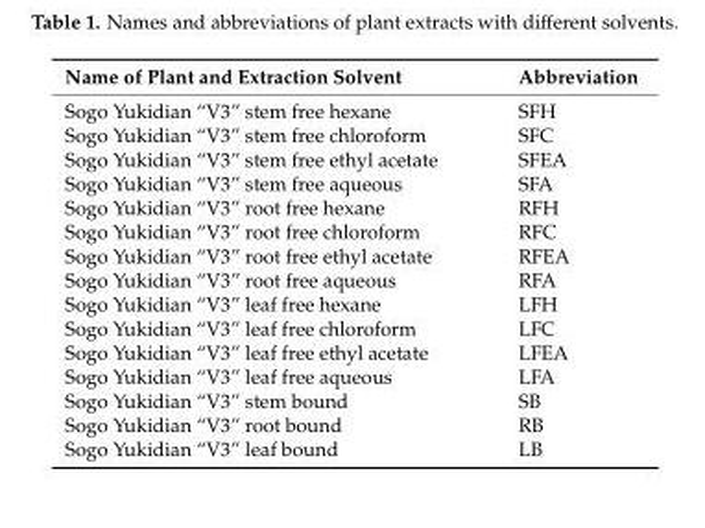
<table><thead><tr><td>Name of Plant and Extraction Solvent</td><td>Abbreviation</td></tr></thead><tbody><tr><td>Sogo Yukidian “V3” stem free hexane</td><td>SFH</td></tr><tr><td>Sogo Yukidian “V3” stem free chloroform</td><td>SFC</td></tr><tr><td>Sogo Yukidian “V3” stem free ethyl acetate</td><td>SFEA</td></tr><tr><td>Sogo Yukidian “V3” stem free aqueous</td><td>SFA</td></tr><tr><td>Sogo Yukidian “V3” root free hexane</td><td>RFH</td></tr><tr><td>Sogo Yukidian “V3” root free chloroform</td><td>RFC</td></tr><tr><td>Sogo Yukidian “V3” root free ethyl acetate</td><td>RFEA</td></tr><tr><td>Sogo Yukidian “V3” root free aqueous</td><td>RFA</td></tr><tr><td>Sogo Yukidian “V3” leaf free hexane</td><td>LFH</td></tr><tr><td>Sogo Yukidian “V3” leaf free chloroform</td><td>LFC</td></tr><tr><td>Sogo Yukidian “V3” leaf free ethyl acetate</td><td>LFEA</td></tr><tr><td>Sogo Yukidian “V3” leaf free aqueous</td><td>LFA</td></tr><tr><td>Sogo Yukidian “V3” stem bound</td><td>SB</td></tr><tr><td>Sogo Yukidian “V3” root bound</td><td>RB</td></tr><tr><td>Sogo Yukidian “V3” leaf bound</td><td>LB</td></tr></tbody></table>